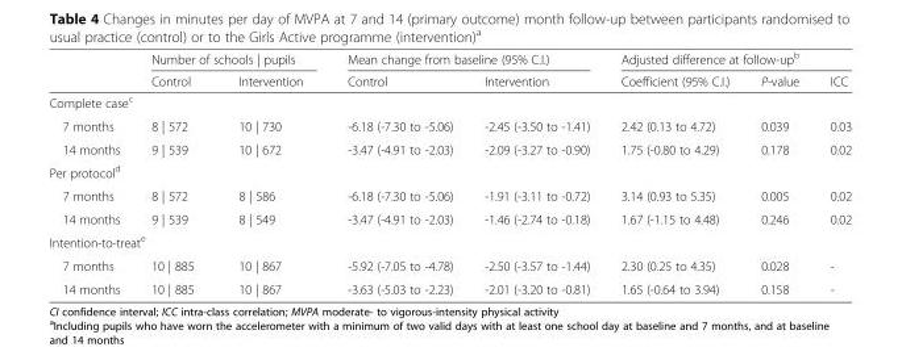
<table><thead><tr><td rowspan="2"></td><td colspan="2">Number of schools | pupils</td><td colspan="2">Mean change from baseline (95% C.I.)</td><td colspan="3">Adjusted difference at follow-up<sup>b</sup></td></tr><tr><td>Control</td><td>Intervention</td><td>Control</td><td>Intervention</td><td>Coefficient (95% C.I.)</td><td>P-value</td><td>ICC</td></tr></thead><tbody><tr><td colspan="8">Complete case<sup>c</sup></td></tr><tr><td>7 months</td><td>8 | 572</td><td>10 | 730</td><td>-6.18 (-7.30 to -5.06)</td><td>-2.45 (-3.50 to -1.41)</td><td>2.42 (0.13 to 4.72)</td><td>0.039</td><td>0.03</td></tr><tr><td>14 months</td><td>9 | 539</td><td>10 | 672</td><td>-3.47 (-4.91 to -2.03)</td><td>-2.09 (-3.27 to -0.90)</td><td>1.75 (-0.80 to 4.29)</td><td>0.178</td><td>0.02</td></tr><tr><td colspan="8">Per protocol<sup>d</sup></td></tr><tr><td>7 months</td><td>8 | 572</td><td>8 | 586</td><td>-6.18 (-7.30 to -5.06)</td><td>-1.91 (-3.11 to -0.72)</td><td>3.14 (0.93 to 5.35)</td><td>0.005</td><td>0.02</td></tr><tr><td>14 months</td><td>9 | 539</td><td>8 | 549</td><td>-3.47 (-4.91 to -2.03)</td><td>-1.46 (-2.74 to -0.18)</td><td>1.67 (-1.15 to 4.48)</td><td>0.246</td><td>0.02</td></tr><tr><td colspan="8">Intention-to-treat<sup>e</sup></td></tr><tr><td>7 months</td><td>10 | 885</td><td>10 | 867</td><td>-5.92 (-7.05 to -4.78)</td><td>-2.50 (-3.57 to -1.44)</td><td>2.30 (0.25 to 4.35)</td><td>0.028</td><td>-</td></tr><tr><td>14 months</td><td>10 | 885</td><td>10 | 867</td><td>-3.63 (-5.03 to -2.23)</td><td>-2.01 (-3.20 to -0.81)</td><td>1.65 (-0.64 to 3.94)</td><td>0.158</td><td>-</td></tr></tbody></table>